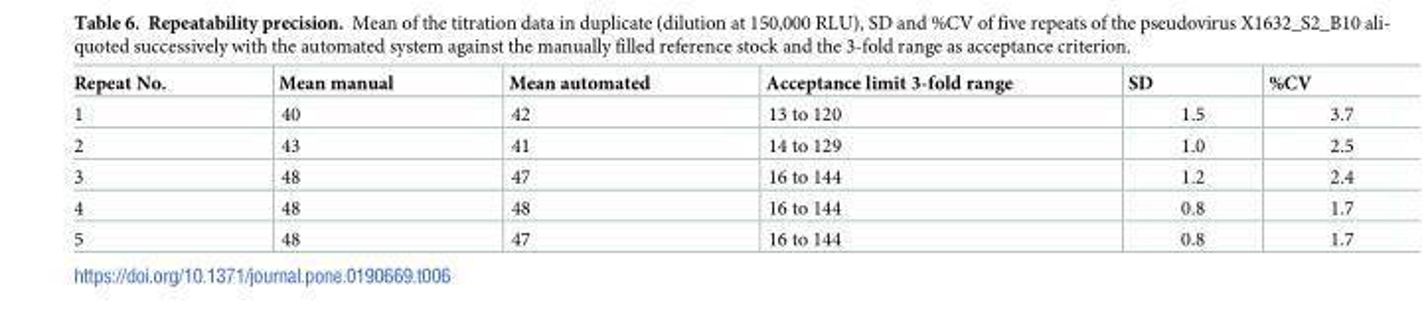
<table><thead><tr><td>Repeat No.</td><td>Mean manual</td><td>Mean automated</td><td>Acceptance limit 3-fold range</td><td>SD</td><td>%CV</td></tr></thead><tbody><tr><td>1</td><td>40</td><td>42</td><td>13 to 120</td><td>1.5</td><td>3.7</td></tr><tr><td>2</td><td>43</td><td>41</td><td>14 to 129</td><td>1.0</td><td>2.5</td></tr><tr><td>3</td><td>48</td><td>47</td><td>16 to 144</td><td>1.2</td><td>2.4</td></tr><tr><td>4</td><td>48</td><td>48</td><td>16 to 144</td><td>0.8</td><td>1.7</td></tr><tr><td>5</td><td>48</td><td>47</td><td>16 to 144</td><td>0.8</td><td>1.7</td></tr></tbody></table>